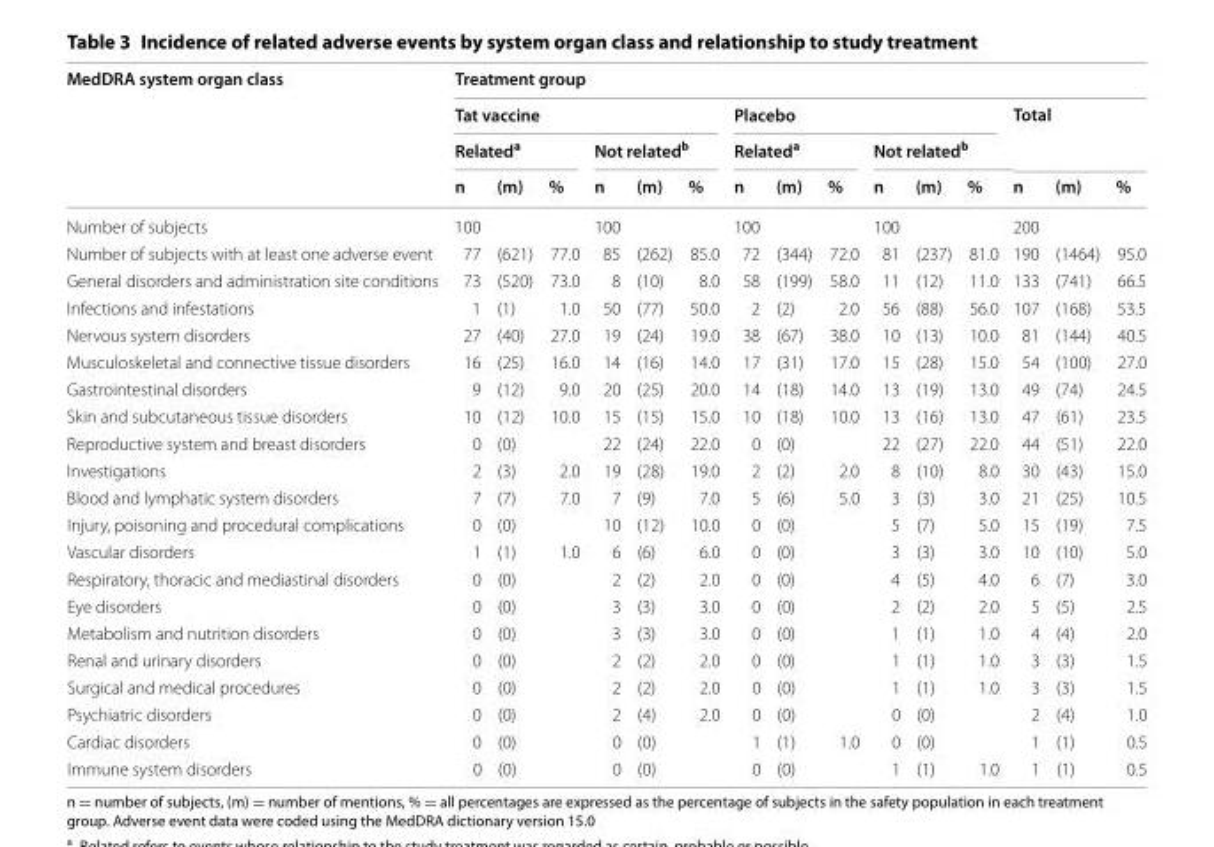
<table><thead><tr><td rowspan="4">MedDRA system organ class</td><td colspan="15">Treatment group</td></tr><tr><td colspan="6">Tat vaccine</td><td colspan="6">Placebo</td><td rowspan="2" colspan="3">Total</td></tr><tr><td colspan="3">Related<sup>a</sup></td><td colspan="3">Not related<sup>b</sup></td><td colspan="3">Related<sup>a</sup></td><td colspan="3">Not related<sup>b</sup></td></tr><tr><td>n</td><td>(m)</td><td>%</td><td>n</td><td>(m)</td><td>%</td><td>n</td><td>(m)</td><td>%</td><td>n</td><td>(m)</td><td>%</td><td>n</td><td>(m)</td><td>%</td></tr></thead><tbody><tr><td>Number of subjects</td><td>100</td><td></td><td></td><td>100</td><td></td><td></td><td>100</td><td></td><td></td><td>100</td><td></td><td></td><td>200</td><td></td><td></td></tr><tr><td>Number of subjects with at least one adverse event</td><td>77</td><td>(621)</td><td>77.0</td><td>85</td><td>(262)</td><td>85.0</td><td>72</td><td>(344)</td><td>72.0</td><td>81</td><td>(237)</td><td>81.0</td><td>190</td><td>(1464)</td><td>95.0</td></tr><tr><td>General disorders and administration site conditions</td><td>73</td><td>(520)</td><td>73.0</td><td>8</td><td>(10)</td><td>8.0</td><td>58</td><td>(199)</td><td>58.0</td><td>11</td><td>(12)</td><td>11.0</td><td>133</td><td>(741)</td><td>66.5</td></tr><tr><td>Infections and infestations</td><td>1</td><td>(1)</td><td>1.0</td><td>50</td><td>(77)</td><td>50.0</td><td>2</td><td>(2)</td><td>2.0</td><td>56</td><td>(88)</td><td>56.0</td><td>107</td><td>(168)</td><td>53.5</td></tr><tr><td>Nervous system disorders</td><td>27</td><td>(40)</td><td>27.0</td><td>19</td><td>(24)</td><td>19.0</td><td>38</td><td>(67)</td><td>38.0</td><td>10</td><td>(13)</td><td>10.0</td><td>81</td><td>(144)</td><td>40.5</td></tr><tr><td>Musculoskeletal and connective tissue disorders</td><td>16</td><td>(25)</td><td>16.0</td><td>14</td><td>(16)</td><td>14.0</td><td>17</td><td>(31)</td><td>17.0</td><td>15</td><td>(28)</td><td>15.0</td><td>54</td><td>(100)</td><td>27.0</td></tr><tr><td>Gastrointestinal disorders</td><td>9</td><td>(12)</td><td>9.0</td><td>20</td><td>(25)</td><td>20.0</td><td>14</td><td>(18)</td><td>14.0</td><td>13</td><td>(19)</td><td>13.0</td><td>49</td><td>(74)</td><td>24.5</td></tr><tr><td>Skin and subcutaneous tissue disorders</td><td>10</td><td>(12)</td><td>10.0</td><td>15</td><td>(15)</td><td>15.0</td><td>10</td><td>(18)</td><td>10.0</td><td>13</td><td>(16)</td><td>13.0</td><td>47</td><td>(61)</td><td>23.5</td></tr><tr><td>Reproductive system and breast disorders</td><td>0</td><td>(0)</td><td></td><td>22</td><td>(24)</td><td>22.0</td><td>0</td><td>(0)</td><td></td><td>22</td><td>(27)</td><td>22.0</td><td>44</td><td>(51)</td><td>22.0</td></tr><tr><td>Investigations</td><td>2</td><td>(3)</td><td>2.0</td><td>19</td><td>(28)</td><td>19.0</td><td>2</td><td>(2)</td><td>2.0</td><td>8</td><td>(10)</td><td>8.0</td><td>30</td><td>(43)</td><td>15.0</td></tr><tr><td>Blood and lymphatic system disorders</td><td>7</td><td>(7)</td><td>7.0</td><td>7</td><td>(9)</td><td>7.0</td><td>5</td><td>(6)</td><td>5.0</td><td>3</td><td>(3)</td><td>3.0</td><td>21</td><td>(25)</td><td>10.5</td></tr><tr><td>Injury, poisoning and procedural complications</td><td>0</td><td>(0)</td><td></td><td>10</td><td>(12)</td><td>10.0</td><td>0</td><td>(0)</td><td></td><td>5</td><td>(7)</td><td>5.0</td><td>15</td><td>(19)</td><td>7.5</td></tr><tr><td>Vascular disorders</td><td>1</td><td>(1)</td><td>1.0</td><td>6</td><td>(6)</td><td>6.0</td><td>0</td><td>(0)</td><td></td><td>3</td><td>(3)</td><td>3.0</td><td>10</td><td>(10)</td><td>5.0</td></tr><tr><td>Respiratory, thoracic and mediastinal disorders</td><td>0</td><td>(0)</td><td></td><td>2</td><td>(2)</td><td>2.0</td><td>0</td><td>(0)</td><td></td><td>4</td><td>(5)</td><td>4.0</td><td>6</td><td>(7)</td><td>3.0</td></tr><tr><td>Eye disorders</td><td>0</td><td>(0)</td><td></td><td>3</td><td>(3)</td><td>3.0</td><td>0</td><td>(0)</td><td></td><td>2</td><td>(2)</td><td>2.0</td><td>5</td><td>(5)</td><td>2.5</td></tr><tr><td>Metabolism and nutrition disorders</td><td>0</td><td>(0)</td><td></td><td>3</td><td>(3)</td><td>3.0</td><td>0</td><td>(0)</td><td></td><td>1</td><td>(1)</td><td>1.0</td><td>4</td><td>(4)</td><td>2.0</td></tr><tr><td>Renal and urinary disorders</td><td>0</td><td>(0)</td><td></td><td>2</td><td>(2)</td><td>2.0</td><td>0</td><td>(0)</td><td></td><td>1</td><td>(1)</td><td>1.0</td><td>3</td><td>(3)</td><td>1.5</td></tr><tr><td>Surgical and medical procedures</td><td>0</td><td>(0)</td><td></td><td>2</td><td>(2)</td><td>2.0</td><td>0</td><td>(0)</td><td></td><td>1</td><td>(1)</td><td>1.0</td><td>3</td><td>(3)</td><td>1.5</td></tr><tr><td>Psychiatric disorders</td><td>0</td><td>(0)</td><td></td><td>2</td><td>(4)</td><td>2.0</td><td>0</td><td>(0)</td><td></td><td>0</td><td>(0)</td><td></td><td>2</td><td>(4)</td><td>1.0</td></tr><tr><td>Cardiac disorders</td><td>0</td><td>(0)</td><td></td><td>0</td><td>(0)</td><td></td><td>1</td><td>(1)</td><td>1.0</td><td>0</td><td>(0)</td><td></td><td>1</td><td>(1)</td><td>0.5</td></tr><tr><td>Immune system disorders</td><td>0</td><td>(0)</td><td></td><td>0</td><td>(0)</td><td></td><td>0</td><td>(0)</td><td></td><td>1</td><td>(1)</td><td>1.0</td><td>1</td><td>(1)</td><td>0.5</td></tr></tbody></table>